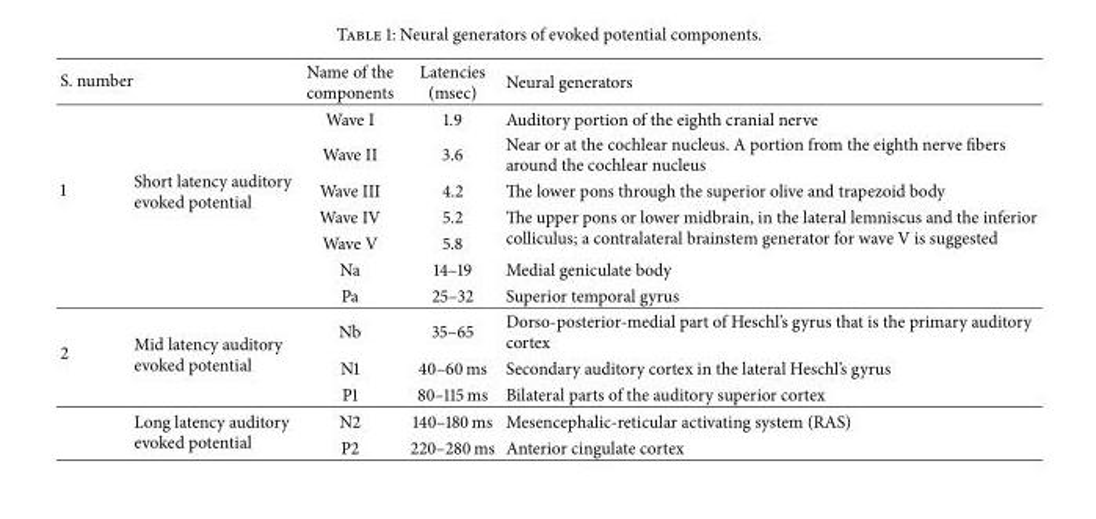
<table><thead><tr><td>S. number</td><td></td><td>Name of the components</td><td>Latencies (msec)</td><td>Neural generators</td></tr></thead><tbody><tr><td rowspan="7">1</td><td rowspan="7">Short latency auditory evoked potential</td><td>Wave I</td><td>1.9</td><td>Auditory portion of the eighth cranial nerve</td></tr><tr><td>Wave II</td><td>3.6</td><td>Near or at the cochlear nucleus. A portion from the eighth nerve fibers around the cochlear nucleus</td></tr><tr><td>Wave III</td><td>4.2</td><td>The lower pons through the superior olive and trapezoid body</td></tr><tr><td>Wave IV</td><td>5.2</td><td rowspan="2">The upper pons or lower midbrain, in the lateral lemniscus and the inferior colliculus; a contralateral brainstem generator for wave V is suggested</td></tr><tr><td>Wave V</td><td>5.8</td></tr><tr><td>Na</td><td>14–19</td><td>Medial geniculate body</td></tr><tr><td>Pa</td><td>25–32</td><td>Superior temporal gyrus</td></tr><tr><td rowspan="5">2</td><td rowspan="3">Mid latency auditory evoked potential</td><td>Nb</td><td>35–65</td><td>Dorso-posterior-medial part of Heschl’s gyrus that is the primary auditory cortex</td></tr><tr><td>N1</td><td>40–60 ms</td><td>Secondary auditory cortex in the lateral Heschl’s gyrus</td></tr><tr><td>P1</td><td>80–115 ms</td><td>Bilateral parts of the auditory superior cortex</td></tr><tr><td rowspan="2">Long latency auditory evoked potential</td><td>N2</td><td>140–180 ms</td><td>Mesencephalic-reticular activating system (RAS)</td></tr><tr><td>P2</td><td>220–280 ms</td><td>Anterior cingulate cortex</td></tr></tbody></table>